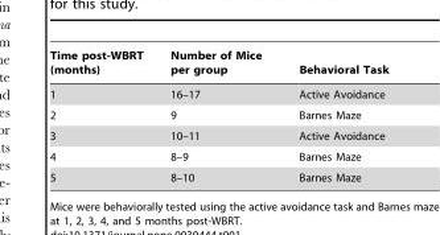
<table><thead><tr><td>Time post-WBRT (months)</td><td>Number of Mice per group</td><td>Behavioral Task</td></tr></thead><tbody><tr><td>1</td><td>16–17</td><td>Active Avoidance</td></tr><tr><td>2</td><td>9</td><td>Barnes Maze</td></tr><tr><td>3</td><td>10–11</td><td>Active Avoidance</td></tr><tr><td>4</td><td>8–9</td><td>Barnes Maze</td></tr><tr><td>5</td><td>8–10</td><td>Barnes Maze</td></tr></tbody></table>